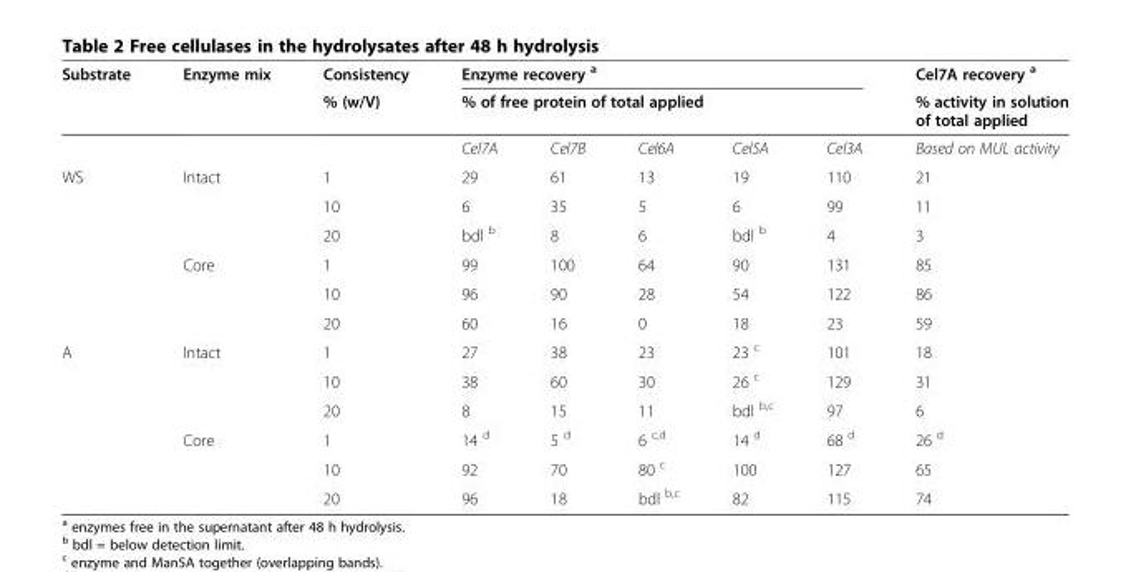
<table><thead><tr><td rowspan="3">Substrate</td><td rowspan="3">Enzyme mix</td><td rowspan="3">Consistency % (w/V)</td><td rowspan="2" colspan="5">Enzyme recovery <sup>a</sup> % of free protein of total applied</td><td rowspan="3">Cel7A recovery <sup>a</sup> % activity in solution of total applied Based on MUL activity</td></tr><tr></tr><tr><td>Cel7A</td><td>Cel7B</td><td>Cel6A</td><td>Cel5A</td><td>Cel3A</td></tr></thead><tbody><tr><td rowspan="6">WS</td><td>Intact</td><td>1</td><td>29</td><td>61</td><td>13</td><td>19</td><td>110</td><td>21</td></tr><tr><td></td><td>10</td><td>6</td><td>35</td><td>5</td><td>6</td><td>99</td><td>11</td></tr><tr><td></td><td>20</td><td>bdl <sup>b</sup></td><td>8</td><td>6</td><td>bdl <sup>b</sup></td><td>4</td><td>3</td></tr><tr><td>Core</td><td>1</td><td>99</td><td>100</td><td>64</td><td>90</td><td>131</td><td>85</td></tr><tr><td></td><td>10</td><td>96</td><td>90</td><td>28</td><td>54</td><td>122</td><td>86</td></tr><tr><td></td><td>20</td><td>60</td><td>16</td><td>0</td><td>18</td><td>23</td><td>59</td></tr><tr><td rowspan="6">A</td><td>Intact</td><td>1</td><td>27</td><td>38</td><td>23</td><td>23 <sup>c</sup></td><td>101</td><td>18</td></tr><tr><td></td><td>10</td><td>38</td><td>60</td><td>30</td><td>26 <sup>c</sup></td><td>129</td><td>31</td></tr><tr><td></td><td>20</td><td>8</td><td>15</td><td>11</td><td>bdl <sup>b,c</sup></td><td>97</td><td>6</td></tr><tr><td>Core</td><td>1</td><td>14 <sup>d</sup></td><td>5 <sup>d</sup></td><td>6 <sup>c,d</sup></td><td>14 <sup>d</sup></td><td>68 <sup>d</sup></td><td>26 <sup>d</sup></td></tr><tr><td></td><td>10</td><td>92</td><td>70</td><td>80 <sup>c</sup></td><td>100</td><td>127</td><td>65</td></tr><tr><td></td><td>20</td><td>96</td><td>18</td><td>bdl <sup>b,c</sup></td><td>82</td><td>115</td><td>74</td></tr></tbody></table>